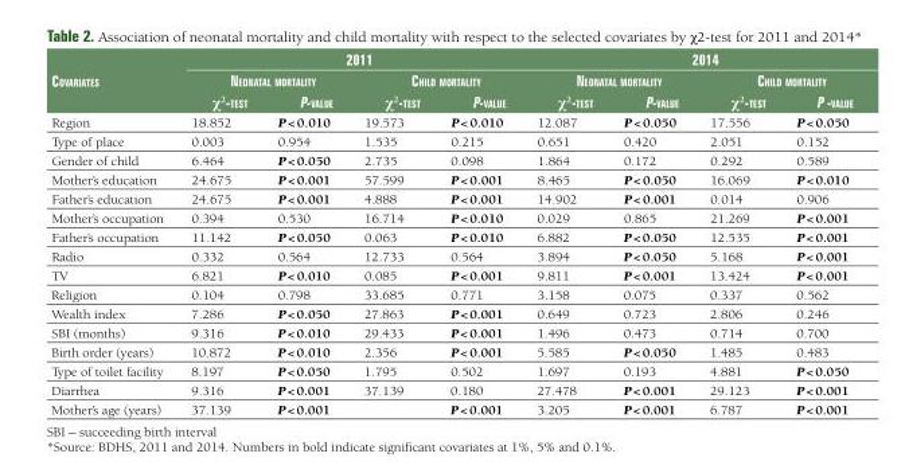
<table><thead><tr><td rowspan="3">CovariateS</td><td colspan="4">2011</td><td colspan="4">2014</td></tr><tr><td colspan="2">neonatal mortality</td><td colspan="2">Child mortality</td><td colspan="2">neonatal mortality</td><td colspan="2">Child mortality</td></tr><tr><td>χ2-teSt</td><td>P-value</td><td>χ2-teSt</td><td>P-value</td><td>χ2-teSt</td><td>P-value</td><td>χ2-teSt</td><td>P -value</td></tr></thead><tbody><tr><td>Region</td><td>18.852</td><td>P &lt; 0.010</td><td>19.573</td><td>P &lt; 0.010</td><td>12.087</td><td>P &lt; 0.050</td><td>17.556</td><td>P &lt; 0.050</td></tr><tr><td>Type of place</td><td>0.003</td><td>0.954</td><td>1.535</td><td>0.215</td><td>0.651</td><td>0.420</td><td>2.051</td><td>0.152</td></tr><tr><td>Gender of child</td><td>6.464</td><td>P &lt; 0.050</td><td>2.735</td><td>0.098</td><td>1.864</td><td>0.172</td><td>0.292</td><td>0.589</td></tr><tr><td>Mother’s education</td><td>24.675</td><td>P &lt; 0.001</td><td>57.599</td><td>P &lt; 0.001</td><td>8.465</td><td>P &lt; 0.050</td><td>16.069</td><td>P &lt; 0.010</td></tr><tr><td>Father’s education</td><td>24.675</td><td>P &lt; 0.001</td><td>4.888</td><td>P &lt; 0.001</td><td>14.902</td><td>P &lt; 0.001</td><td>0.014</td><td>0.906</td></tr><tr><td>Mother’s occupation</td><td>0.394</td><td>0.530</td><td>16.714</td><td>P &lt; 0.010</td><td>0.029</td><td>0.865</td><td>21.269</td><td>P &lt; 0.001</td></tr><tr><td>Father’s occupation</td><td>11.142</td><td>P &lt; 0.050</td><td>0.063</td><td>P &lt; 0.010</td><td>6.882</td><td>P &lt; 0.050</td><td>12.535</td><td>P &lt; 0.001</td></tr><tr><td>Radio</td><td>0.332</td><td>0.564</td><td>12.733</td><td>0.564</td><td>3.894</td><td>P &lt; 0.050</td><td>5.168</td><td>P &lt; 0.001</td></tr><tr><td>TV</td><td>6.821</td><td>P &lt; 0.010</td><td>0.085</td><td>P &lt; 0.001</td><td>9.811</td><td>P &lt; 0.001</td><td>13.424</td><td>P &lt; 0.001</td></tr><tr><td>Religion</td><td>0.104</td><td>0.798</td><td>33.685</td><td>0.771</td><td>3.158</td><td>0.075</td><td>0.337</td><td>0.562</td></tr><tr><td>Wealth index</td><td>7.286</td><td>P &lt; 0.050</td><td>27.863</td><td>P &lt; 0.001</td><td>0.649</td><td>0.723</td><td>2.806</td><td>0.246</td></tr><tr><td>SBI (months)</td><td>9.316</td><td>P &lt; 0.010</td><td>29.433</td><td>P &lt; 0.001</td><td>1.496</td><td>0.473</td><td>0.714</td><td>0.700</td></tr><tr><td>Birth order (years)</td><td>10.872</td><td>P &lt; 0.010</td><td>2.356</td><td>P &lt; 0.001</td><td>5.585</td><td>P &lt; 0.050</td><td>1.485</td><td>0.483</td></tr><tr><td>Type of toilet facility</td><td>8.197</td><td>P &lt; 0.050</td><td>1.795</td><td>0.502</td><td>1.697</td><td>0.193</td><td>4.881</td><td>P &lt; 0.050</td></tr><tr><td>Diarrhea</td><td>9.316</td><td>P &lt; 0.001</td><td>37.139</td><td>0.180</td><td>27.478</td><td>P &lt; 0.001</td><td>29.123</td><td>P &lt; 0.001</td></tr><tr><td>Mother’s age (years)</td><td>37.139</td><td>P &lt; 0.001</td><td></td><td>P &lt; 0.001</td><td>3.205</td><td>P &lt; 0.001</td><td>6.787</td><td>P &lt; 0.001</td></tr></tbody></table>